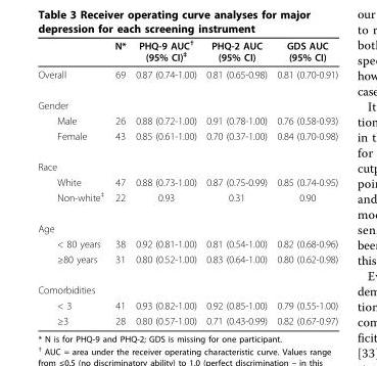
<table><thead><tr><td></td><td>N*</td><td>PHQ-9 AUC<sup>†</sup> (95% CI)<sup>‡</sup></td><td>PHQ-2 AUC (95% CI)</td><td>GDS AUC (95% CI)</td></tr></thead><tbody><tr><td>Overall</td><td>69</td><td>0.87 (0.74-1.00)</td><td>0.81 (0.65-0.98)</td><td>0.81 (0.70-0.91)</td></tr><tr><td colspan="5">Gender</td></tr><tr><td>Male</td><td>26</td><td>0.88 (0.72-1.00)</td><td>0.91 (0.78-1.00)</td><td>0.76 (0.58-0.93)</td></tr><tr><td>Female</td><td>43</td><td>0.85 (0.61-1.00)</td><td>0.70 (0.37-1.00)</td><td>0.84 (0.70-0.98)</td></tr><tr><td colspan="5">Race</td></tr><tr><td>White</td><td>47</td><td>0.88 (0.73-1.00)</td><td>0.87 (0.75-0.99)</td><td>0.85 (0.74-0.95)</td></tr><tr><td>Non-white<sup>‡</sup></td><td>22</td><td>0.93</td><td>0.31</td><td>0.90</td></tr><tr><td colspan="5">Age</td></tr><tr><td>&lt; 80 years</td><td>38</td><td>0.92 (0.81-1.00)</td><td>0.81 (0.54-1.00)</td><td>0.82 (0.68-0.96)</td></tr><tr><td>≥80 years</td><td>31</td><td>0.80 (0.52-1.00)</td><td>0.83 (0.64-1.00)</td><td>0.80 (0.62-0.98)</td></tr><tr><td colspan="5">Comorbidities</td></tr><tr><td>&lt; 3</td><td>41</td><td>0.93 (0.82-1.00)</td><td>0.92 (0.85-1.00)</td><td>0.79 (0.55-1.00)</td></tr><tr><td>≥3</td><td>28</td><td>0.80 (0.57-1.00)</td><td>0.71 (0.43-0.99)</td><td>0.82 (0.67-0.97)</td></tr></tbody></table>